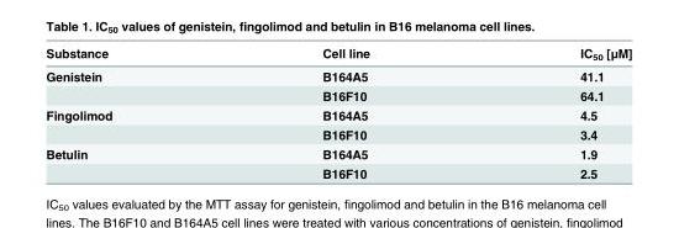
<table><thead><tr><td>Substance</td><td>Cell line</td><td>IC<sub>50</sub> [μM]</td></tr></thead><tbody><tr><td rowspan="2">Genistein</td><td>B164A5</td><td>41.1</td></tr><tr><td>B16F10</td><td>64.1</td></tr><tr><td rowspan="2">Fingolimod</td><td>B164A5</td><td>4.5</td></tr><tr><td>B16F10</td><td>3.4</td></tr><tr><td rowspan="2">Betulin</td><td>B164A5</td><td>1.9</td></tr><tr><td>B16F10</td><td>2.5</td></tr></tbody></table>